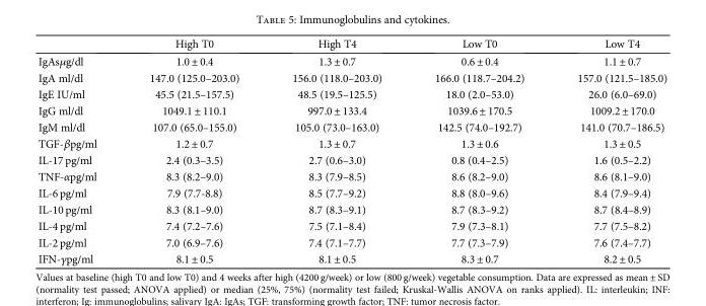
<table><thead><tr><td></td><td>High T0</td><td>High T4</td><td>Low T0</td><td>Low T4</td></tr></thead><tbody><tr><td>IgAsμg/dl</td><td>1.0 ± 0.4</td><td>1.3 ± 0.7</td><td>0.6 ± 0.4</td><td>1.1 ± 0.7</td></tr><tr><td>IgA ml/dl</td><td>147.0 (125.0–203.0)</td><td>156.0 (118.0–203.0)</td><td>166.0 (118.7–204.2)</td><td>157.0 (121.5–185.0)</td></tr><tr><td>IgE IU/ml</td><td>45.5 (21.5–157.5)</td><td>48.5 (19.5–125.5)</td><td>18.0 (2.0–53.0)</td><td>26.0 (6.0–69.0)</td></tr><tr><td>IgG ml/dl</td><td>1049.1 ± 110.1</td><td>997.0 ± 133.4</td><td>1039.6 ± 170.5</td><td>1009.2 ± 170.0</td></tr><tr><td>IgM ml/dl</td><td>107.0 (65.0–155.0)</td><td>105.0 (73.0–163.0)</td><td>142.5 (74.0–192.7)</td><td>141.0 (70.7–186.5)</td></tr><tr><td>TGF-βpg/ml</td><td>1.2 ± 0.7</td><td>1.3 ± 0.7</td><td>1.3 ± 0.6</td><td>1.3 ± 0.5</td></tr><tr><td>IL-17 pg/ml</td><td>2.4 (0.3–3.5)</td><td>2.7 (0.6–3.0)</td><td>0.8 (0.4–2.5)</td><td>1.6 (0.5–2.2)</td></tr><tr><td>TNF-αpg/ml</td><td>8.3 (8.2–9.0)</td><td>8.3 (7.9–8.5)</td><td>8.6 (8.2–9.0)</td><td>8.6 (8.1–9.0)</td></tr><tr><td>IL-6 pg/ml</td><td>7.9 (7.7-8.8)</td><td>8.5 (7.7–9.2)</td><td>8.8 (8.0–9.6)</td><td>8.4 (7.9–9.4)</td></tr><tr><td>IL-10 pg/ml</td><td>8.3 (8.1–9.0)</td><td>8.7 (8.3–9.1)</td><td>8.7 (8.3–9.2)</td><td>8.7 (8.4–8.9)</td></tr><tr><td>IL-4 pg/ml</td><td>7.4 (7.2–7.6)</td><td>7.5 (7.1–8.4)</td><td>7.9 (7.3–8.1)</td><td>7.7 (7.5–8.2)</td></tr><tr><td>IL-2 pg/ml</td><td>7.0 (6.9–7.6)</td><td>7.4 (7.1–7.7)</td><td>7.7 (7.3–7.9)</td><td>7.6 (7.4–7.7)</td></tr><tr><td>IFN-γpg/ml</td><td>8.1 ± 0.5</td><td>8.1 ± 0.5</td><td>8.3 ± 0.7</td><td>8.2 ± 0.5</td></tr></tbody></table>